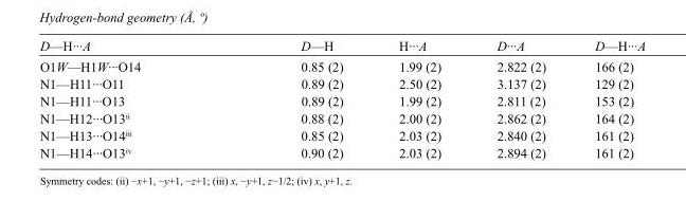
<table><tbody><tr><td>D—H···A</td><td>D—H</td><td>H···A</td><td>D···A</td><td>D—H···A</td></tr><tr><td>O1W—H1W···O14</td><td>0.85 (2)</td><td>1.99 (2)</td><td>2.822 (2)</td><td>166 (2)</td></tr><tr><td>N1—H11···O11</td><td>0.89 (2)</td><td>2.50 (2)</td><td>3.137 (2)</td><td>129 (2)</td></tr><tr><td>N1—H11···O13</td><td>0.89 (2)</td><td>1.99 (2)</td><td>2.811 (2)</td><td>153 (2)</td></tr><tr><td>N1—H12···O13<sup>ii</sup></td><td>0.88 (2)</td><td>2.00 (2)</td><td>2.862 (2)</td><td>164 (2)</td></tr><tr><td>N1—H13···O14<sup>iii</sup></td><td>0.85 (2)</td><td>2.03 (2)</td><td>2.840 (2)</td><td>161 (2)</td></tr><tr><td>N1—H14···O13<sup>iv</sup></td><td>0.90 (2)</td><td>2.03 (2)</td><td>2.894 (2)</td><td>161 (2)</td></tr></tbody></table>